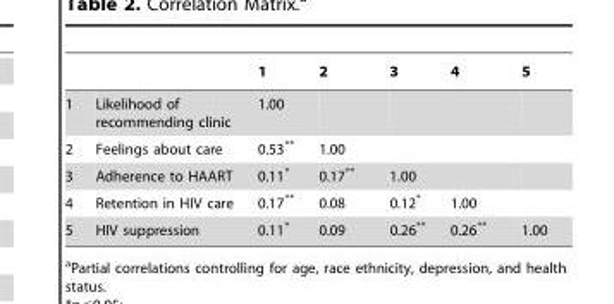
<table><thead><tr><td></td><td></td><td>1</td><td>2</td><td>3</td><td>4</td><td>5</td></tr></thead><tbody><tr><td>1</td><td>Likelihood of recommending clinic</td><td>1.00</td><td></td><td></td><td></td><td></td></tr><tr><td>2</td><td>Feelings about care</td><td>0.53**</td><td>1.00</td><td></td><td></td><td></td></tr><tr><td>3</td><td>Adherence to HAART</td><td>0.11*</td><td>0.17**</td><td>1.00</td><td></td><td></td></tr><tr><td>4</td><td>Retention in HIV care</td><td>0.17**</td><td>0.08</td><td>0.12*</td><td>1.00</td><td></td></tr><tr><td>5</td><td>HIV suppression</td><td>0.11*</td><td>0.09</td><td>0.26**</td><td>0.26**</td><td>1.00</td></tr></tbody></table>